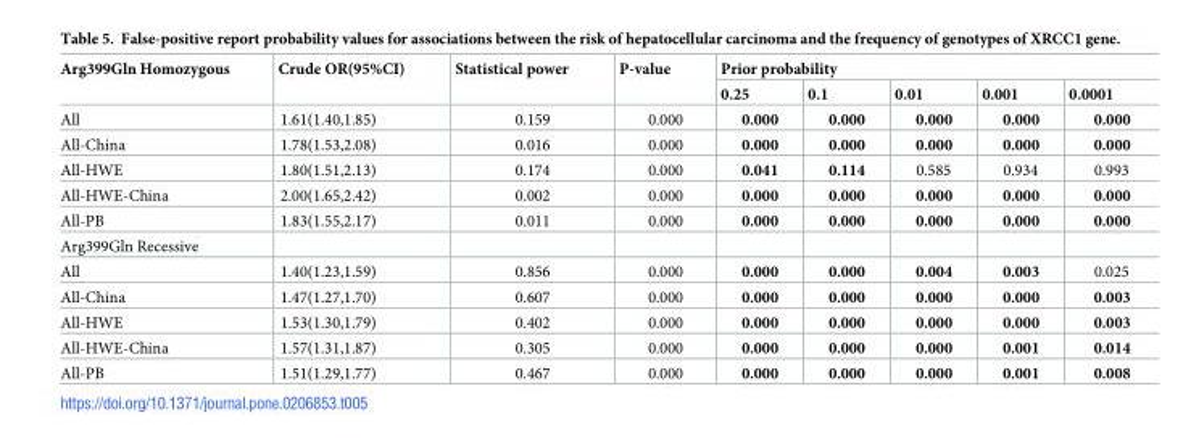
<table><thead><tr><td rowspan="2">Arg399Gln Homozygous</td><td rowspan="2">Crude OR(95%CI)</td><td rowspan="2">Statistical power</td><td rowspan="2">P-value</td><td colspan="5">Prior probability</td></tr><tr><td>0.25</td><td>0.1</td><td>0.01</td><td>0.001</td><td>0.0001</td></tr></thead><tbody><tr><td>All</td><td>1.61(1.40,1.85)</td><td>0.159</td><td>0.000</td><td>0.000</td><td>0.000</td><td>0.000</td><td>0.000</td><td>0.000</td></tr><tr><td>All-China</td><td>1.78(1.53,2.08)</td><td>0.016</td><td>0.000</td><td>0.000</td><td>0.000</td><td>0.000</td><td>0.000</td><td>0.000</td></tr><tr><td>All-HWE</td><td>1.80(1.51,2.13)</td><td>0.174</td><td>0.000</td><td>0.041</td><td>0.114</td><td>0.585</td><td>0.934</td><td>0.993</td></tr><tr><td>All-HWE-China</td><td>2.00(1.65,2.42)</td><td>0.002</td><td>0.000</td><td>0.000</td><td>0.000</td><td>0.000</td><td>0.000</td><td>0.000</td></tr><tr><td>All-PB</td><td>1.83(1.55,2.17)</td><td>0.011</td><td>0.000</td><td>0.000</td><td>0.000</td><td>0.000</td><td>0.000</td><td>0.000</td></tr><tr><td colspan="9">Arg399Gln Recessive</td></tr><tr><td>All</td><td>1.40(1.23,1.59)</td><td>0.856</td><td>0.000</td><td>0.000</td><td>0.000</td><td>0.004</td><td>0.003</td><td>0.025</td></tr><tr><td>All-China</td><td>1.47(1.27,1.70)</td><td>0.607</td><td>0.000</td><td>0.000</td><td>0.000</td><td>0.000</td><td>0.000</td><td>0.003</td></tr><tr><td>All-HWE</td><td>1.53(1.30,1.79)</td><td>0.402</td><td>0.000</td><td>0.000</td><td>0.000</td><td>0.000</td><td>0.000</td><td>0.003</td></tr><tr><td>All-HWE-China</td><td>1.57(1.31,1.87)</td><td>0.305</td><td>0.000</td><td>0.000</td><td>0.000</td><td>0.000</td><td>0.001</td><td>0.014</td></tr><tr><td>All-PB</td><td>1.51(1.29,1.77)</td><td>0.467</td><td>0.000</td><td>0.000</td><td>0.000</td><td>0.000</td><td>0.001</td><td>0.008</td></tr></tbody></table>